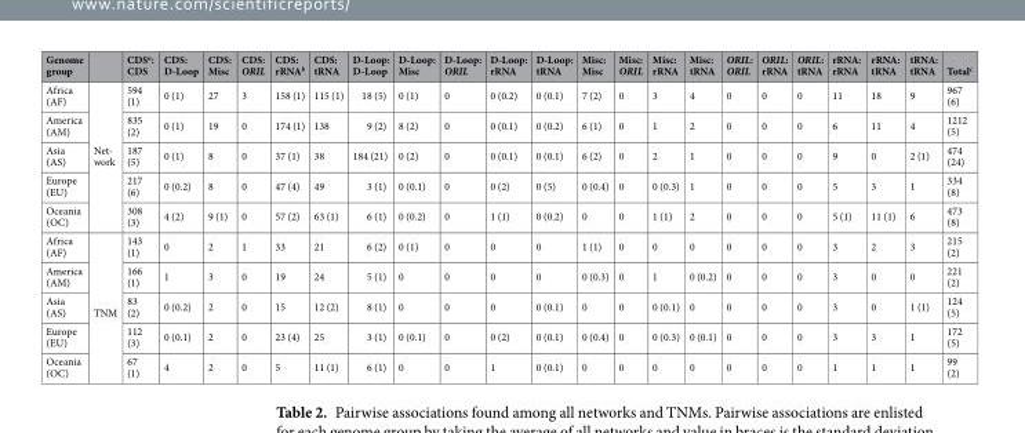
<table><thead><tr><td>Genome group</td><td></td><td>CDS<sup>a</sup>: CDS</td><td>CDS: D-Loop</td><td>CDS: Misc</td><td>CDS: ORIL</td><td>CDS: rRNA<sup>b</sup></td><td>CDS: tRNA</td><td>D-Loop: D-Loop</td><td>D-Loop: Misc</td><td>D-Loop: ORIL</td><td>D-Loop: rRNA</td><td>D-Loop: tRNA</td><td>Misc: Misc</td><td>Misc: ORIL</td><td>Misc: rRNA</td><td>Misc: tRNA</td><td>ORIL: ORIL</td><td>ORIL: rRNA</td><td>ORIL: tRNA</td><td>rRNA: rRNA</td><td>rRNA: tRNA</td><td>tRNA: tRNA</td><td>Total<sup>c</sup></td></tr></thead><tbody><tr><td>Africa (AF)</td><td rowspan="5">Net- work</td><td>594 (1)</td><td>0 (1)</td><td>27</td><td>3</td><td>158 (1)</td><td>115 (1)</td><td>18 (5)</td><td>0 (1)</td><td>0</td><td>0 (0.2)</td><td>0 (0.1)</td><td>7 (2)</td><td>0</td><td>3</td><td>4</td><td>0</td><td>0</td><td>0</td><td>11</td><td>18</td><td>9</td><td>967 (6)</td></tr><tr><td>America (AM)</td><td>835 (2)</td><td>0 (1)</td><td>19</td><td>0</td><td>174 (1)</td><td>138</td><td>9 (2)</td><td>8 (2)</td><td>0</td><td>0 (0.1)</td><td>0 (0.2)</td><td>6 (1)</td><td>0</td><td>1</td><td>2</td><td>0</td><td>0</td><td>0</td><td>6</td><td>11</td><td>4</td><td>1212 (5)</td></tr><tr><td>Asia (AS)</td><td>187 (5)</td><td>0 (1)</td><td>8</td><td>0</td><td>37 (1)</td><td>38</td><td>184 (21)</td><td>0 (2)</td><td>0</td><td>0 (0.1)</td><td>0 (0.1)</td><td>6 (2)</td><td>0</td><td>2</td><td>1</td><td>0</td><td>0</td><td>0</td><td>9</td><td>0</td><td>2 (1)</td><td>474 (24)</td></tr><tr><td>Europe (EU)</td><td>217 (6)</td><td>0 (0.2)</td><td>8</td><td>0</td><td>47 (4)</td><td>49</td><td>3 (1)</td><td>0 (0.1)</td><td>0</td><td>0 (2)</td><td>0 (5)</td><td>0 (0.4)</td><td>0</td><td>0 (0.3)</td><td>1</td><td>0</td><td>0</td><td>0</td><td>5</td><td>3</td><td>1</td><td>334 (8)</td></tr><tr><td>Oceania (OC)</td><td>308 (3)</td><td>4 (2)</td><td>9 (1)</td><td>0</td><td>57 (2)</td><td>63 (1)</td><td>6 (1)</td><td>0 (0.2)</td><td>0</td><td>1 (1)</td><td>0 (0.2)</td><td>0</td><td>0</td><td>1 (1)</td><td>2</td><td>0</td><td>0</td><td>0</td><td>5 (1)</td><td>11 (1)</td><td>6</td><td>473 (8)</td></tr><tr><td>Africa (AF)</td><td rowspan="5">TNM</td><td>143 (1)</td><td>0</td><td>2</td><td>1</td><td>33</td><td>21</td><td>6 (2)</td><td>0 (1)</td><td>0</td><td>0</td><td>0</td><td>1 (1)</td><td>0</td><td>0</td><td>0</td><td>0</td><td>0</td><td>0</td><td>3</td><td>2</td><td>3</td><td>215 (2)</td></tr><tr><td>America (AM)</td><td>166 (1)</td><td>1</td><td>3</td><td>0</td><td>19</td><td>24</td><td>5 (1)</td><td>0</td><td>0</td><td>0</td><td>0</td><td>0 (0.3)</td><td>0</td><td>1</td><td>0 (0.2)</td><td>0</td><td>0</td><td>0</td><td>3</td><td>0</td><td>0</td><td>221 (2)</td></tr><tr><td>Asia (AS)</td><td>83 (2)</td><td>0 (0.2)</td><td>2</td><td>0</td><td>15</td><td>12 (2)</td><td>8 (1)</td><td>0</td><td>0</td><td>0</td><td>0 (0.1)</td><td>0</td><td>0</td><td>0 (0.1)</td><td>0</td><td>0</td><td>0</td><td>0</td><td>3</td><td>0</td><td>1 (1)</td><td>124 (5)</td></tr><tr><td>Europe (EU)</td><td>112 (3)</td><td>0 (0.1)</td><td>2</td><td>0</td><td>23 (4)</td><td>25</td><td>3 (1)</td><td>0 (0.1)</td><td>0</td><td>0 (2)</td><td>0 (0.1)</td><td>0 (0.4)</td><td>0</td><td>0 (0.3)</td><td>0 (0.1)</td><td>0</td><td>0</td><td>0</td><td>3</td><td>3</td><td>1</td><td>172 (5)</td></tr><tr><td>Oceania (OC)</td><td>67 (1)</td><td>4</td><td>2</td><td>0</td><td>5</td><td>11 (1)</td><td>6 (1)</td><td>0</td><td>0</td><td>1</td><td>0 (0.1)</td><td>0</td><td>0</td><td>0</td><td>0</td><td>0</td><td>0</td><td>0</td><td>1</td><td>1</td><td>1</td><td>99 (2)</td></tr></tbody></table>